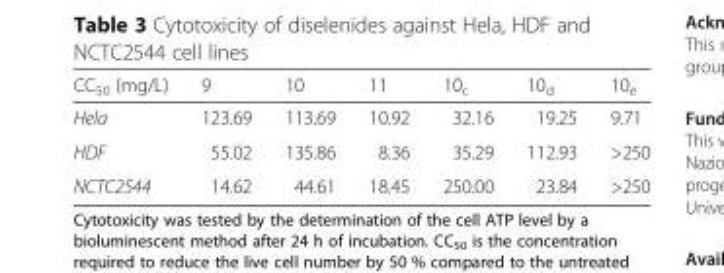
<table><thead><tr><td>CC<sub>50</sub> (mg/L)</td><td>9</td><td>10</td><td>11</td><td>10<sub>c</sub></td><td>10<sub>d</sub></td><td>10<sub>e</sub></td></tr></thead><tbody><tr><td>Hela</td><td>123.69</td><td>113.69</td><td>10.92</td><td>32.16</td><td>19.25</td><td>9.71</td></tr><tr><td>HDF</td><td>55.02</td><td>135.86</td><td>8.36</td><td>35.29</td><td>112.93</td><td>&gt;250</td></tr><tr><td>NCTC2544</td><td>14.62</td><td>44.61</td><td>18.45</td><td>250.00</td><td>23.84</td><td>&gt;250</td></tr></tbody></table>